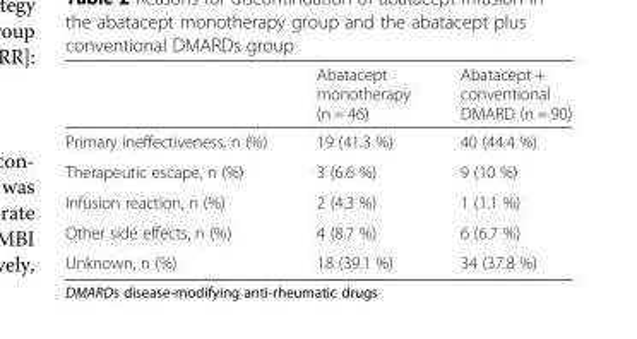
<table><thead><tr><td></td><td>Abatacept monotherapy (n = 46)</td><td>Abatacept + conventional DMARD (n = 90)</td></tr></thead><tbody><tr><td>Primary ineffectiveness, n (%)</td><td>19 (41.3 %)</td><td>40 (44.4 %)</td></tr><tr><td>Therapeutic escape, n (%)</td><td>3 (6.6 %)</td><td>9 (10 %)</td></tr><tr><td>Infusion reaction, n (%)</td><td>2 (4.3 %)</td><td>1 (1.1 %)</td></tr><tr><td>Other side effects, n (%)</td><td>4 (8.7 %)</td><td>6 (6.7 %)</td></tr><tr><td>Unknown, n (%)</td><td>18 (39.1 %)</td><td>34 (37.8 %)</td></tr></tbody></table>